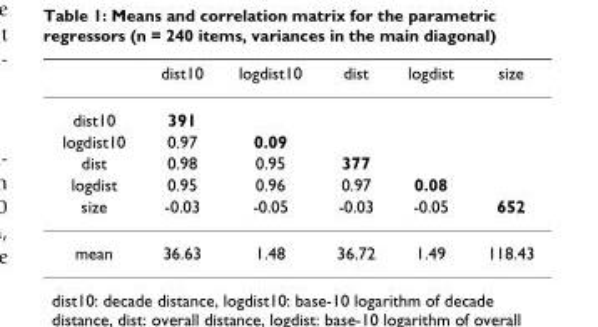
<table><thead><tr><td></td><td>dist10</td><td>logdist10</td><td>dist</td><td>logdist</td><td>size</td></tr></thead><tbody><tr><td>dist10</td><td>391</td><td></td><td></td><td></td><td></td></tr><tr><td>logdist10</td><td>0.97</td><td>0.09</td><td></td><td></td><td></td></tr><tr><td>dist</td><td>0.98</td><td>0.95</td><td>377</td><td></td><td></td></tr><tr><td>logdist</td><td>0.95</td><td>0.96</td><td>0.97</td><td>0.08</td><td></td></tr><tr><td>size</td><td>-0.03</td><td>-0.05</td><td>-0.03</td><td>-0.05</td><td>652</td></tr><tr><td>mean</td><td>36.63</td><td>1.48</td><td>36.72</td><td>1.49</td><td>118.43</td></tr></tbody></table>